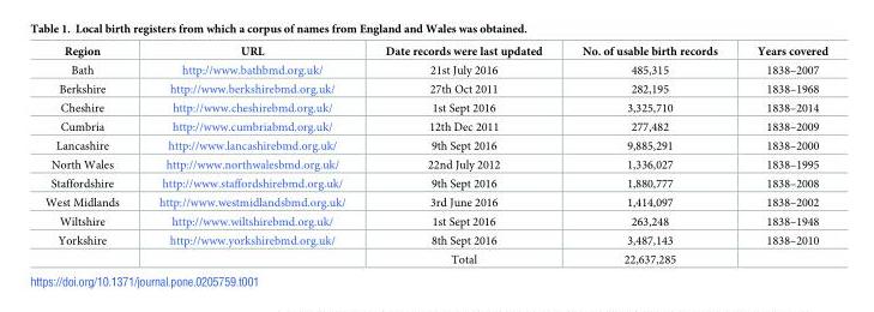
<table><thead><tr><td>Region</td><td>URL</td><td>Date records were last updated</td><td>No. of usable birth records</td><td>Years covered</td></tr></thead><tbody><tr><td>Bath</td><td>http://www.bathbmd.org.uk/</td><td>21st July 2016</td><td>485,315</td><td>1838–2007</td></tr><tr><td>Berkshire</td><td>http://www.berkshirebmd.org.uk/</td><td>27th Oct 2011</td><td>282,195</td><td>1838–1968</td></tr><tr><td>Cheshire</td><td>http://www.cheshirebmd.org.uk/</td><td>1st Sept 2016</td><td>3,325,710</td><td>1838–2014</td></tr><tr><td>Cumbria</td><td>http://www.cumbriabmd.org.uk/</td><td>12th Dec 2011</td><td>277,482</td><td>1838–2009</td></tr><tr><td>Lancashire</td><td>http://www.lancashirebmd.org.uk/</td><td>9th Sept 2016</td><td>9,885,291</td><td>1838–2000</td></tr><tr><td>North Wales</td><td>http://www.northwalesbmd.org.uk/</td><td>22nd July 2012</td><td>1,336,027</td><td>1838–1995</td></tr><tr><td>Staffordshire</td><td>http://www.staffordshirebmd.org.uk/</td><td>9th Sept 2016</td><td>1,880,777</td><td>1838–2008</td></tr><tr><td>West Midlands</td><td>http://www.westmidlandsbmd.org.uk/</td><td>3rd June 2016</td><td>1,414,097</td><td>1838–2002</td></tr><tr><td>Wiltshire</td><td>http://www.wiltshirebmd.org.uk/</td><td>1st Sept 2016</td><td>263,248</td><td>1838–1948</td></tr><tr><td rowspan="2">Yorkshire</td><td>http://www.yorkshirebmd.org.uk/</td><td>8th Sept 2016</td><td>3,487,143</td><td>1838–2010</td></tr><tr><td></td><td>Total</td><td>22,637,285</td><td></td></tr></tbody></table>